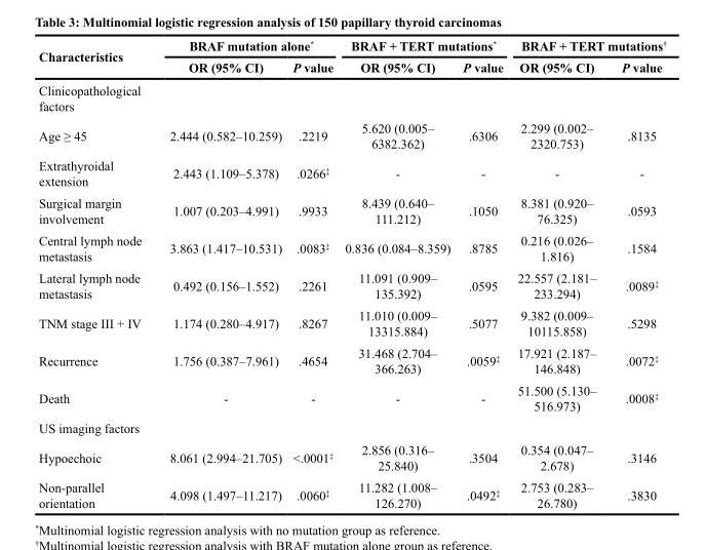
<table><thead><tr><td rowspan="2">Characteristics</td><td colspan="2">BRAF mutation alone*</td><td colspan="2">BRAF + TERT mutations*</td><td colspan="2">BRAF + TERT mutations<sup>†</sup></td></tr><tr><td>OR (95% CI)</td><td>P value</td><td>OR (95% CI)</td><td>P value</td><td>OR (95% CI)</td><td>P value</td></tr></thead><tbody><tr><td colspan="7">Clinicopathological factors</td></tr><tr><td>Age ≥ 45</td><td>2.444 (0.582–10.259)</td><td>.2219</td><td>5.620 (0.005– 6382.362)</td><td>.6306</td><td>2.299 (0.002– 2320.753)</td><td>.8135</td></tr><tr><td>Extrathyroidal extension</td><td>2.443 (1.109–5.378)</td><td>.0266<sup>‡</sup></td><td>-</td><td>-</td><td>-</td><td>-</td></tr><tr><td>Surgical margin involvement</td><td>1.007 (0.203–4.991)</td><td>.9933</td><td>8.439 (0.640– 111.212)</td><td>.1050</td><td>8.381 (0.920– 76.325)</td><td>.0593</td></tr><tr><td>Central lymph node metastasis</td><td>3.863 (1.417–10.531)</td><td>.0083<sup>‡</sup></td><td>0.836 (0.084–8.359)</td><td>.8785</td><td>0.216 (0.026– 1.816)</td><td>.1584</td></tr><tr><td>Lateral lymph node metastasis</td><td>0.492 (0.156–1.552)</td><td>.2261</td><td>11.091 (0.909– 135.392)</td><td>.0595</td><td>22.557 (2.181– 233.294)</td><td>.0089<sup>‡</sup></td></tr><tr><td>TNM stage III + IV</td><td>1.174 (0.280–4.917)</td><td>.8267</td><td>11.010 (0.009– 13315.884)</td><td>.5077</td><td>9.382 (0.009– 10115.858)</td><td>.5298</td></tr><tr><td>Recurrence</td><td>1.756 (0.387–7.961)</td><td>.4654</td><td>31.468 (2.704– 366.263)</td><td>.0059<sup>‡</sup></td><td>17.921 (2.187– 146.848)</td><td>.0072<sup>‡</sup></td></tr><tr><td>Death</td><td>-</td><td>-</td><td>-</td><td>-</td><td>51.500 (5.130– 516.973)</td><td>.0008<sup>‡</sup></td></tr><tr><td colspan="7">US imaging factors</td></tr><tr><td>Hypoechoic</td><td>8.061 (2.994–21.705)</td><td>&lt;.0001<sup>‡</sup></td><td>2.856 (0.316– 25.840)</td><td>.3504</td><td>0.354 (0.047– 2.678)</td><td>.3146</td></tr><tr><td>Non-parallel orientation</td><td>4.098 (1.497–11.217)</td><td>.0060<sup>‡</sup></td><td>11.282 (1.008– 126.270)</td><td>.0492<sup>‡</sup></td><td>2.753 (0.283– 26.780)</td><td>.3830</td></tr></tbody></table>